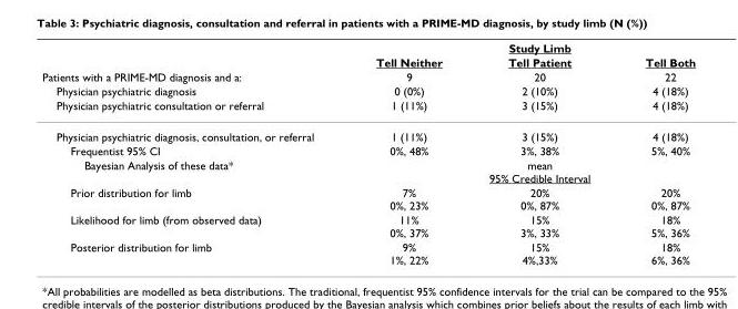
<table><thead><tr><td rowspan="5">Patients with a PRIME-MD diagnosis and a: Physician psychiatric diagnosis Physician psychiatric consultation or referral</td><td colspan="3">Study Limb</td></tr><tr><td rowspan="4">Tell Neither 9 0 (0%) 1 (11%)</td><td rowspan="4">Tell Patient 20 2 (10%) 3 (15%)</td><td rowspan="4">Tell Both 22 4 (18%) 4 (18%)</td></tr><tr></tr><tr></tr><tr></tr></thead><tbody><tr><td>Physician psychiatric diagnosis, consultation, or referral</td><td>1 (11%)</td><td>3 (15%)</td><td>4 (18%)</td></tr><tr><td>Frequentist 95% CI</td><td>0%, 48%</td><td>3%, 38%</td><td>5%, 40%</td></tr><tr><td>Bayesian Analysis of these data*</td><td colspan="3">mean 95% Credible Interval</td></tr><tr><td>Prior distribution for limb</td><td>7% 0%, 23%</td><td>20% 0%, 87%</td><td>20% 0%, 87%</td></tr><tr><td>Likelihood for limb (from observed data)</td><td>11% 0%, 37%</td><td>15% 3%, 33%</td><td>18% 5%, 36%</td></tr><tr><td>Posterior distribution for limb</td><td>9% 1%, 22%</td><td>15% 4%,33%</td><td>18% 6%, 36%</td></tr></tbody></table>